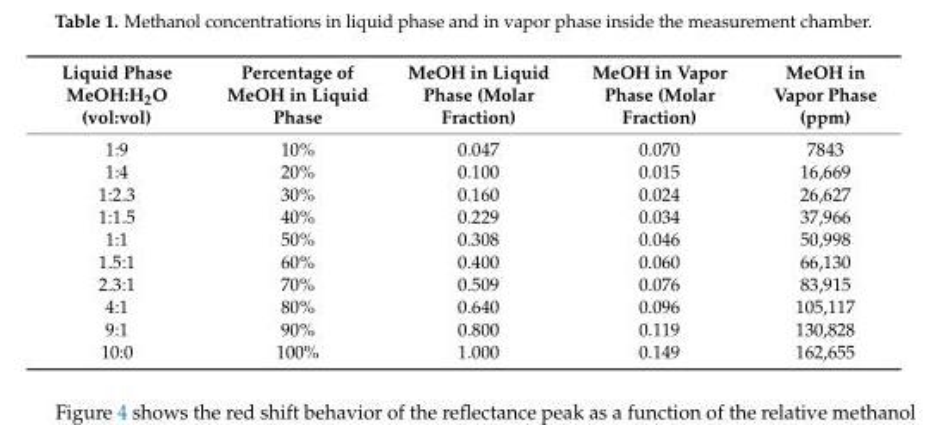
<table><thead><tr><td>Liquid Phase MeOH:H<sub>2</sub>O (vol:vol)</td><td>Percentage of MeOH in Liquid Phase</td><td>MeOH in Liquid Phase (Molar Fraction)</td><td>MeOH in Vapor Phase (Molar Fraction)</td><td>MeOH in Vapor Phase (ppm)</td></tr></thead><tbody><tr><td>1:9</td><td>10%</td><td>0.047</td><td>0.070</td><td>7843</td></tr><tr><td>1:4</td><td>20%</td><td>0.100</td><td>0.015</td><td>16,669</td></tr><tr><td>1:2.3</td><td>30%</td><td>0.160</td><td>0.024</td><td>26,627</td></tr><tr><td>1:1.5</td><td>40%</td><td>0.229</td><td>0.034</td><td>37,966</td></tr><tr><td>1:1</td><td>50%</td><td>0.308</td><td>0.046</td><td>50,998</td></tr><tr><td>1.5:1</td><td>60%</td><td>0.400</td><td>0.060</td><td>66,130</td></tr><tr><td>2.3:1</td><td>70%</td><td>0.509</td><td>0.076</td><td>83,915</td></tr><tr><td>4:1</td><td>80%</td><td>0.640</td><td>0.096</td><td>105,117</td></tr><tr><td>9:1</td><td>90%</td><td>0.800</td><td>0.119</td><td>130,828</td></tr><tr><td>10:0</td><td>100%</td><td>1.000</td><td>0.149</td><td>162,655</td></tr></tbody></table>